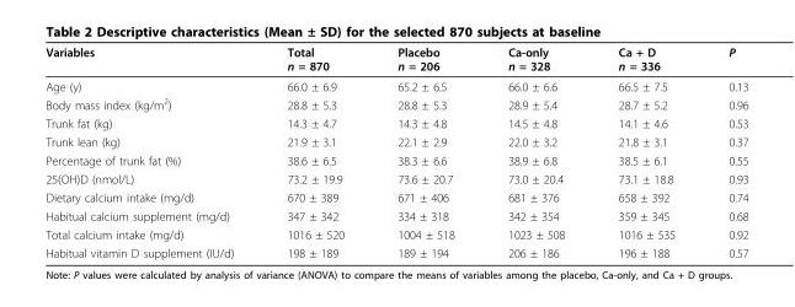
<table><thead><tr><td>Variables</td><td>Total n = 870</td><td>Placebo n = 206</td><td>Ca-only n = 328</td><td>Ca + D n = 336</td><td>P</td></tr></thead><tbody><tr><td>Age (y)</td><td>66.0 ± 6.9</td><td>65.2 ± 6.5</td><td>66.0 ± 6.6</td><td>66.5 ± 7.5</td><td>0.13</td></tr><tr><td>Body mass index (kg/m<sup>2</sup>)</td><td>28.8 ± 5.3</td><td>28.8 ± 5.3</td><td>28.9 ± 5.4</td><td>28.7 ± 5.2</td><td>0.96</td></tr><tr><td>Trunk fat (kg)</td><td>14.3 ± 4.7</td><td>14.3 ± 4.8</td><td>14.5 ± 4.8</td><td>14.1 ± 4.6</td><td>0.53</td></tr><tr><td>Trunk lean (kg)</td><td>21.9 ± 3.1</td><td>22.1 ± 2.9</td><td>22.0 ± 3.2</td><td>21.8 ± 3.1</td><td>0.37</td></tr><tr><td>Percentage of trunk fat (%)</td><td>38.6 ± 6.5</td><td>38.3 ± 6.6</td><td>38.9 ± 6.8</td><td>38.5 ± 6.1</td><td>0.55</td></tr><tr><td>25(OH)D (nmol/L)</td><td>73.2 ± 19.9</td><td>73.6 ± 20.7</td><td>73.0 ± 20.4</td><td>73.1 ± 18.8</td><td>0.93</td></tr><tr><td>Dietary calcium intake (mg/d)</td><td>670 ± 389</td><td>671 ± 406</td><td>681 ± 376</td><td>658 ± 392</td><td>0.74</td></tr><tr><td>Habitual calcium supplement (mg/d)</td><td>347 ± 342</td><td>334 ± 318</td><td>342 ± 354</td><td>359 ± 345</td><td>0.68</td></tr><tr><td>Total calcium intake (mg/d)</td><td>1016 ± 520</td><td>1004 ± 518</td><td>1023 ± 508</td><td>1016 ± 535</td><td>0.92</td></tr><tr><td>Habitual vitamin D supplement (IU/d)</td><td>198 ± 189</td><td>189 ± 194</td><td>206 ± 186</td><td>196 ± 188</td><td>0.57</td></tr></tbody></table>